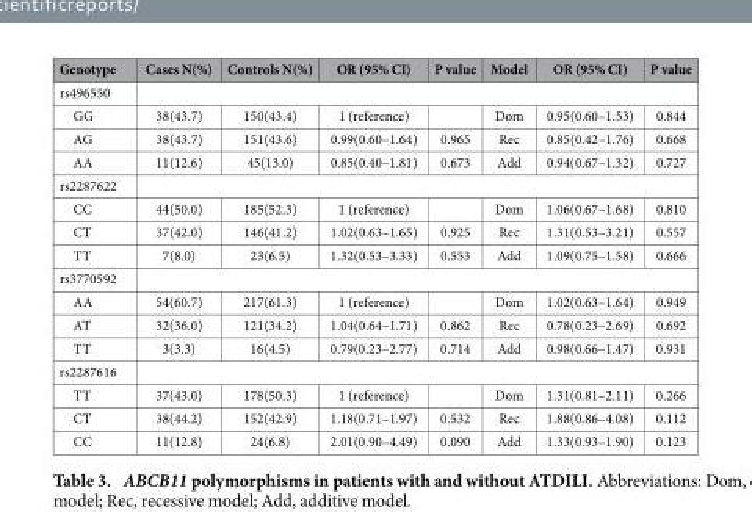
<table><thead><tr><td>Genotype</td><td>Cases N(%)</td><td>Controls N(%)</td><td>OR (95% CI)</td><td>P value</td><td>Model</td><td>OR (95% CI)</td><td>P value</td></tr></thead><tbody><tr><td colspan="8">rs496550</td></tr><tr><td>GG</td><td>38(43.7)</td><td>150(43.4)</td><td>1 (reference)</td><td></td><td>Dom</td><td>0.95(0.60–1.53)</td><td>0.844</td></tr><tr><td>AG</td><td>38(43.7)</td><td>151(43.6)</td><td>0.99(0.60–1.64)</td><td>0.965</td><td>Rec</td><td>0.85(0.42–1.76)</td><td>0.668</td></tr><tr><td>AA</td><td>11(12.6)</td><td>45(13.0)</td><td>0.85(0.40–1.81)</td><td>0.673</td><td>Add</td><td>0.94(0.67–1.32)</td><td>0.727</td></tr><tr><td colspan="8">rs2287622</td></tr><tr><td>CC</td><td>44(50.0)</td><td>185(52.3)</td><td>1 (reference)</td><td></td><td>Dom</td><td>1.06(0.67–1.68)</td><td>0.810</td></tr><tr><td>CT</td><td>37(42.0)</td><td>146(41.2)</td><td>1.02(0.63–1.65)</td><td>0.925</td><td>Rec</td><td>1.31(0.53–3.21)</td><td>0.557</td></tr><tr><td>TT</td><td>7(8.0)</td><td>23(6.5)</td><td>1.32(0.53–3.33)</td><td>0.553</td><td>Add</td><td>1.09(0.75–1.58)</td><td>0.666</td></tr><tr><td colspan="8">rs3770592</td></tr><tr><td>AA</td><td>54(60.7)</td><td>217(61.3)</td><td>1 (reference)</td><td></td><td>Dom</td><td>1.02(0.63–1.64)</td><td>0.949</td></tr><tr><td>AT</td><td>32(36.0)</td><td>121(34.2)</td><td>1.04(0.64–1.71)</td><td>0.862</td><td>Rec</td><td>0.78(0.23–2.69)</td><td>0.692</td></tr><tr><td>TT</td><td>3(3.3)</td><td>16(4.5)</td><td>0.79(0.23–2.77)</td><td>0.714</td><td>Add</td><td>0.98(0.66–1.47)</td><td>0.931</td></tr><tr><td colspan="8">rs2287616</td></tr><tr><td>TT</td><td>37(43.0)</td><td>178(50.3)</td><td>1 (reference)</td><td></td><td>Dom</td><td>1.31(0.81–2.11)</td><td>0.266</td></tr><tr><td>CT</td><td>38(44.2)</td><td>152(42.9)</td><td>1.18(0.71–1.97)</td><td>0.532</td><td>Rec</td><td>1.88(0.86–4.08)</td><td>0.112</td></tr><tr><td>CC</td><td>11(12.8)</td><td>24(6.8)</td><td>2.01(0.90–4.49)</td><td>0.090</td><td>Add</td><td>1.33(0.93–1.90)</td><td>0.123</td></tr></tbody></table>